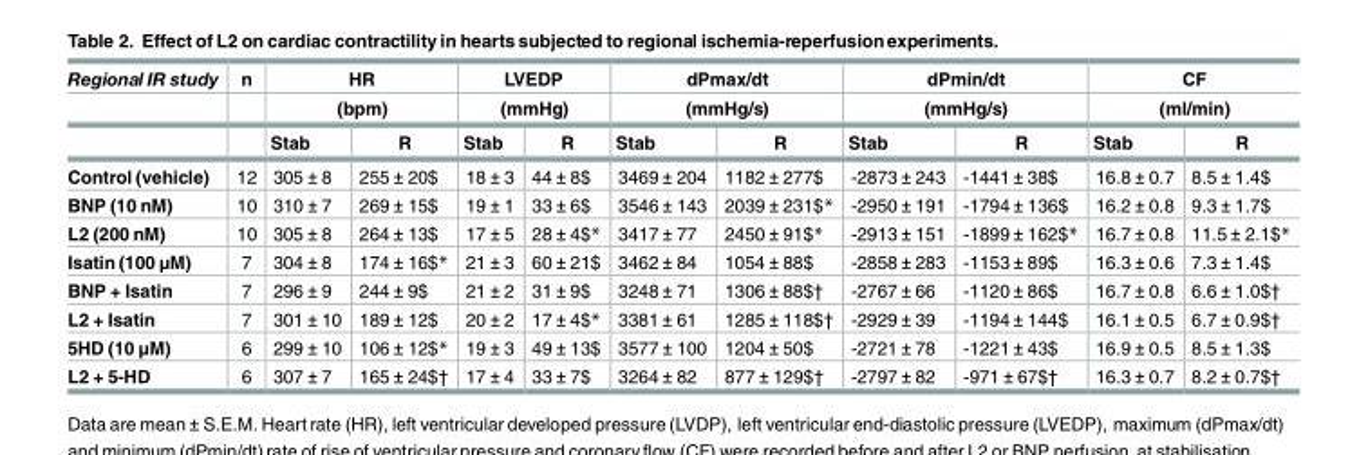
<table><thead><tr><td rowspan="3">Regional IR study</td><td rowspan="3">n</td><td rowspan="2" colspan="2">HR (bpm)</td><td rowspan="2" colspan="2">LVEDP (mmHg)</td><td rowspan="2" colspan="2">dPmax/dt (mmHg/s)</td><td rowspan="2" colspan="2">dPmin/dt (mmHg/s)</td><td rowspan="2" colspan="2">CF (ml/min)</td></tr><tr></tr><tr><td>Stab</td><td>R</td><td>Stab</td><td>R</td><td>Stab</td><td>R</td><td>Stab</td><td>R</td><td>Stab</td><td>R</td></tr></thead><tbody><tr><td>Control (vehicle)</td><td>12</td><td>305 ± 8</td><td>255 ± 20$</td><td>18 ± 3</td><td>44 ± 8$</td><td>3469 ± 204</td><td>1182 ± 277$</td><td>-2873 ± 243</td><td>-1441 ± 38$</td><td>16.8 ± 0.7</td><td>8.5 ± 1.4$</td></tr><tr><td>BNP (10 nM)</td><td>10</td><td>310 ± 7</td><td>269 ± 15$</td><td>19 ± 1</td><td>33 ± 6$</td><td>3546 ± 143</td><td>2039 ± 231$*</td><td>-2950 ± 191</td><td>-1794 ± 136$</td><td>16.2 ± 0.8</td><td>9.3 ± 1.7$</td></tr><tr><td>L2 (200 nM)</td><td>10</td><td>305 ± 8</td><td>264 ± 13$</td><td>17 ± 5</td><td>28 ± 4$*</td><td>3417 ± 77</td><td>2450 ± 91$*</td><td>-2913 ± 151</td><td>-1899 ± 162$*</td><td>16.7 ± 0.8</td><td>11.5 ± 2.1$*</td></tr><tr><td>Isatin (100 μM)</td><td>7</td><td>304 ± 8</td><td>174 ± 16$*</td><td>21 ± 3</td><td>60 ± 21$</td><td>3462 ± 84</td><td>1054 ± 88$</td><td>-2858 ± 283</td><td>-1153 ± 89$</td><td>16.3 ± 0.6</td><td>7.3 ± 1.4$</td></tr><tr><td>BNP + Isatin</td><td>7</td><td>296 ± 9</td><td>244 ± 9$</td><td>21 ± 2</td><td>31 ± 9$</td><td>3248 ± 71</td><td>1306 ± 88$†</td><td>-2767 ± 66</td><td>-1120 ± 86$</td><td>16.7 ± 0.8</td><td>6.6 ± 1.0$†</td></tr><tr><td>L2 + Isatin</td><td>7</td><td>301 ± 10</td><td>189 ± 12$</td><td>20 ± 2</td><td>17 ± 4$*</td><td>3381 ± 61</td><td>1285 ± 118$†</td><td>-2929 ± 39</td><td>-1194 ± 144$</td><td>16.1 ± 0.5</td><td>6.7 ± 0.9$†</td></tr><tr><td>5HD (10 μM)</td><td>6</td><td>299 ± 10</td><td>106 ± 12$*</td><td>19 ± 3</td><td>49 ± 13$</td><td>3577 ± 100</td><td>1204 ± 50$</td><td>-2721 ± 78</td><td>-1221 ± 43$</td><td>16.9 ± 0.5</td><td>8.5 ± 1.3$</td></tr><tr><td>L2 + 5-HD</td><td>6</td><td>307 ± 7</td><td>165 ± 24$†</td><td>17 ± 4</td><td>33 ± 7$</td><td>3264 ± 82</td><td>877 ± 129$†</td><td>-2797 ± 82</td><td>-971 ± 67$†</td><td>16.3 ± 0.7</td><td>8.2 ± 0.7$†</td></tr></tbody></table>